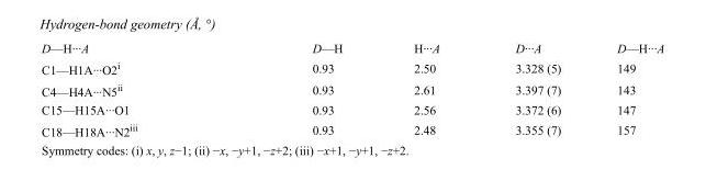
<table><tbody><tr><td>D—H···A</td><td>D—H</td><td>H···A</td><td>D···A</td><td>D—H···A</td></tr><tr><td>C1—H1A···O2<sup>i</sup></td><td>0.93</td><td>2.50</td><td>3.328 (5)</td><td>149</td></tr><tr><td>C4—H4A···N5<sup>ii</sup></td><td>0.93</td><td>2.61</td><td>3.397 (7)</td><td>143</td></tr><tr><td>C15—H15A···O1</td><td>0.93</td><td>2.56</td><td>3.372 (6)</td><td>147</td></tr><tr><td>C18—H18A···N2<sup>iii</sup></td><td>0.93</td><td>2.48</td><td>3.355 (7)</td><td>157</td></tr></tbody></table>